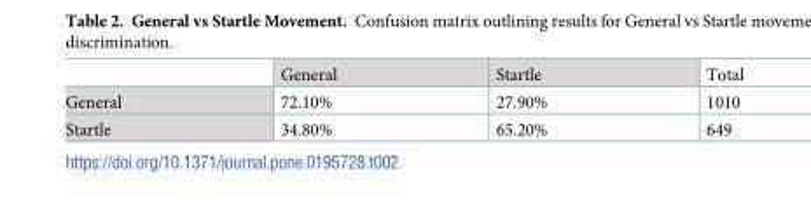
<table><thead><tr><td></td><td>General</td><td>Startle</td><td>Total</td></tr></thead><tbody><tr><td>General</td><td>72.10%</td><td>27.90%</td><td>1010</td></tr><tr><td>Startle</td><td>34.80%</td><td>65.20%</td><td>649</td></tr></tbody></table>